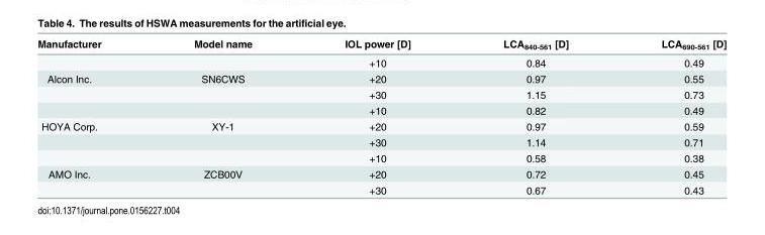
<table><thead><tr><td>Manufacturer</td><td>Model name</td><td>IOL power [D]</td><td>LCA<sub>840-561</sub> [D]</td><td>LCA<sub>690-561</sub> [D]</td></tr></thead><tbody><tr><td></td><td></td><td>+10</td><td>0.84</td><td>0.49</td></tr><tr><td rowspan="3">Alcon Inc.</td><td>SN6CWS</td><td>+20</td><td>0.97</td><td>0.55</td></tr><tr><td></td><td>+30</td><td>1.15</td><td>0.73</td></tr><tr><td></td><td>+10</td><td>0.82</td><td>0.49</td></tr><tr><td rowspan="3">HOYA Corp.</td><td>XY-1</td><td>+20</td><td>0.97</td><td>0.59</td></tr><tr><td></td><td>+30</td><td>1.14</td><td>0.71</td></tr><tr><td></td><td>+10</td><td>0.58</td><td>0.38</td></tr><tr><td rowspan="2">AMO Inc.</td><td>ZCB00V</td><td>+20</td><td>0.72</td><td>0.45</td></tr><tr><td></td><td>+30</td><td>0.67</td><td>0.43</td></tr></tbody></table>